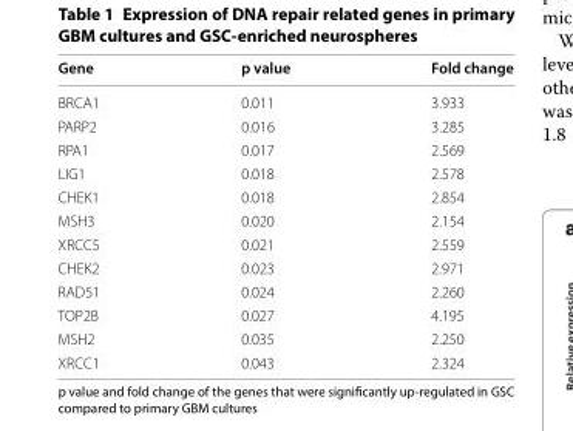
<table><thead><tr><td>Gene</td><td>p value</td><td>Fold change</td></tr></thead><tbody><tr><td>BRCA1</td><td>0.011</td><td>3.933</td></tr><tr><td>PARP2</td><td>0.016</td><td>3.285</td></tr><tr><td>RPA1</td><td>0.017</td><td>2.569</td></tr><tr><td>LIG1</td><td>0.018</td><td>2.578</td></tr><tr><td>CHEK1</td><td>0.018</td><td>2.854</td></tr><tr><td>MSH3</td><td>0.020</td><td>2.154</td></tr><tr><td>XRCC5</td><td>0.021</td><td>2.559</td></tr><tr><td>CHEK2</td><td>0.023</td><td>2.971</td></tr><tr><td>RAD51</td><td>0.024</td><td>2.260</td></tr><tr><td>TOP2B</td><td>0.027</td><td>4.195</td></tr><tr><td>MSH2</td><td>0.035</td><td>2.250</td></tr><tr><td>XRCC1</td><td>0.043</td><td>2.324</td></tr></tbody></table>